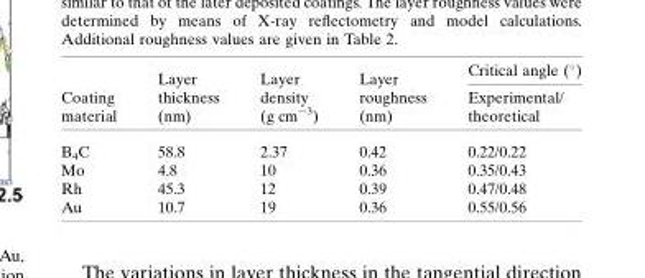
<table><thead><tr><td rowspan="2">Coating material</td><td rowspan="2">Layer thickness (nm)</td><td rowspan="2">Layer density (g cm<sup>−3</sup>)</td><td rowspan="2">Layer roughness (nm)</td><td rowspan="2">Critical angle (°) Experimental/ theoretical</td></tr><tr></tr></thead><tbody><tr><td>B<sub>4</sub>C</td><td>58.8</td><td>2.37</td><td>0.42</td><td>0.22/0.22</td></tr><tr><td>Mo</td><td>4.8</td><td>10</td><td>0.36</td><td>0.35/0.43</td></tr><tr><td>Rh</td><td>45.3</td><td>12</td><td>0.39</td><td>0.47/0.48</td></tr><tr><td>Au</td><td>10.7</td><td>19</td><td>0.36</td><td>0.55/0.56</td></tr></tbody></table>